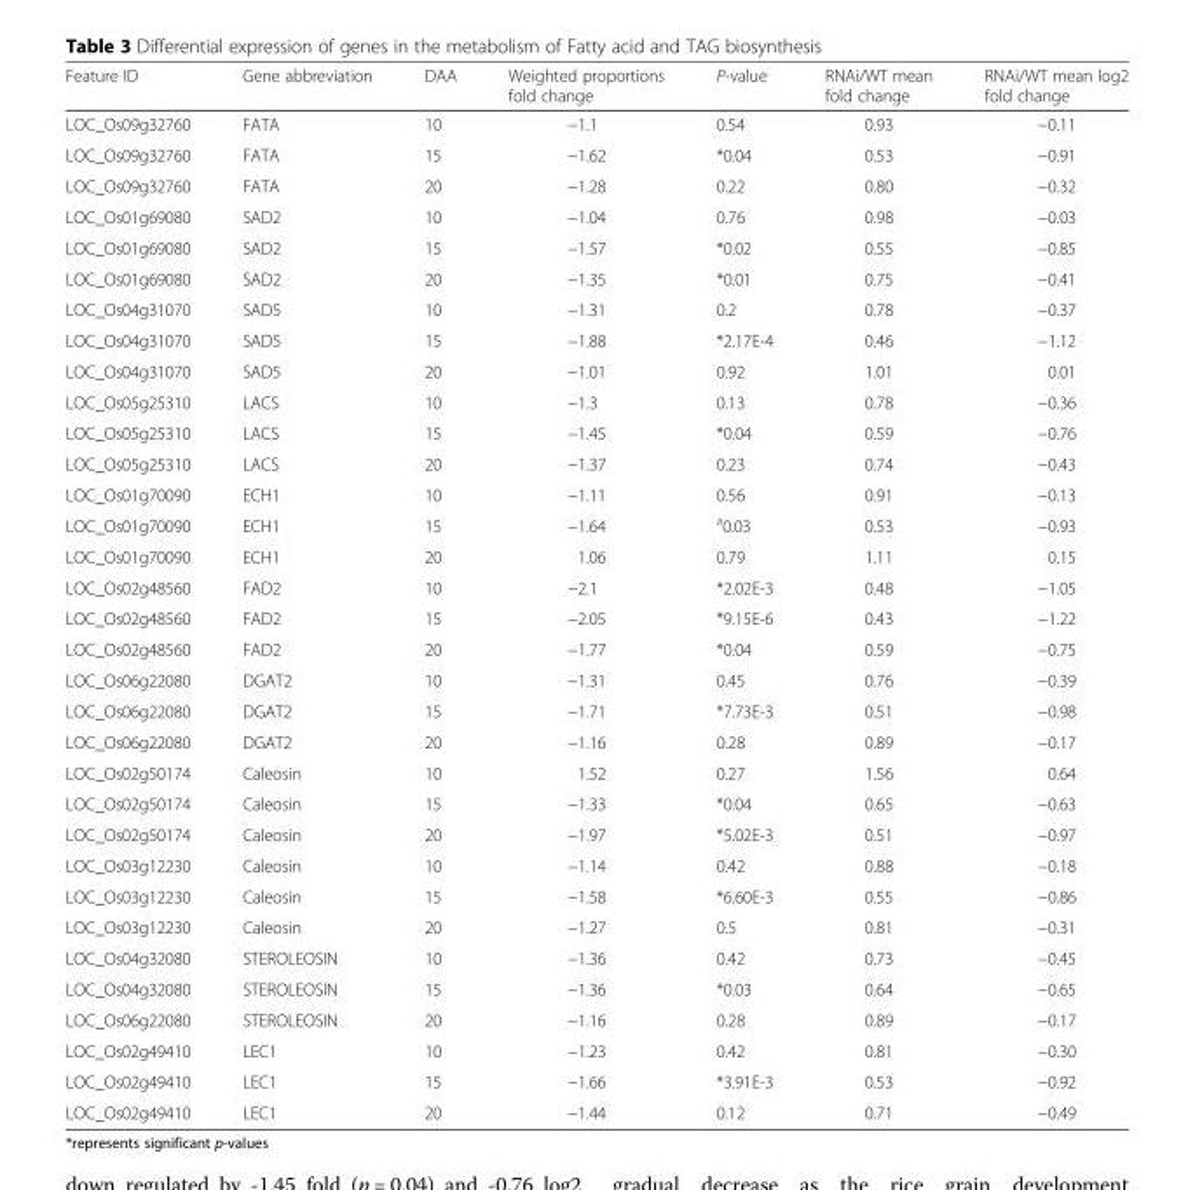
<table><thead><tr><td>Feature ID</td><td>Gene abbreviation</td><td>DAA</td><td>Weighted proportions fold change</td><td>P-value</td><td>RNAi/WT mean fold change</td><td>RNAi/WT mean log2 fold change</td></tr></thead><tbody><tr><td>LOC_Os09g32760</td><td>FATA</td><td>10</td><td>−1.1</td><td>0.54</td><td>0.93</td><td>−0.11</td></tr><tr><td>LOC_Os09g32760</td><td>FATA</td><td>15</td><td>−1.62</td><td>*0.04</td><td>0.53</td><td>−0.91</td></tr><tr><td>LOC_Os09g32760</td><td>FATA</td><td>20</td><td>−1.28</td><td>0.22</td><td>0.80</td><td>−0.32</td></tr><tr><td>LOC_Os01g69080</td><td>SAD2</td><td>10</td><td>−1.04</td><td>0.76</td><td>0.98</td><td>−0.03</td></tr><tr><td>LOC_Os01g69080</td><td>SAD2</td><td>15</td><td>−1.57</td><td>*0.02</td><td>0.55</td><td>−0.85</td></tr><tr><td>LOC_Os01g69080</td><td>SAD2</td><td>20</td><td>−1.35</td><td>*0.01</td><td>0.75</td><td>−0.41</td></tr><tr><td>LOC_Os04g31070</td><td>SAD5</td><td>10</td><td>−1.31</td><td>0.2</td><td>0.78</td><td>−0.37</td></tr><tr><td>LOC_Os04g31070</td><td>SAD5</td><td>15</td><td>−1.88</td><td>*2.17E-4</td><td>0.46</td><td>−1.12</td></tr><tr><td>LOC_Os04g31070</td><td>SAD5</td><td>20</td><td>−1.01</td><td>0.92</td><td>1.01</td><td>0.01</td></tr><tr><td>LOC_Os05g25310</td><td>LACS</td><td>10</td><td>−1.3</td><td>0.13</td><td>0.78</td><td>−0.36</td></tr><tr><td>LOC_Os05g25310</td><td>LACS</td><td>15</td><td>−1.45</td><td>*0.04</td><td>0.59</td><td>−0.76</td></tr><tr><td>LOC_Os05g25310</td><td>LACS</td><td>20</td><td>−1.37</td><td>0.23</td><td>0.74</td><td>−0.43</td></tr><tr><td>LOC_Os01g70090</td><td>ECH1</td><td>10</td><td>−1.11</td><td>0.56</td><td>0.91</td><td>−0.13</td></tr><tr><td>LOC_Os01g70090</td><td>ECH1</td><td>15</td><td>−1.64</td><td><sup>a</sup>0.03</td><td>0.53</td><td>−0.93</td></tr><tr><td>LOC_Os01g70090</td><td>ECH1</td><td>20</td><td>1.06</td><td>0.79</td><td>1.11</td><td>0.15</td></tr><tr><td>LOC_Os02g48560</td><td>FAD2</td><td>10</td><td>−2.1</td><td>*2.02E-3</td><td>0.48</td><td>−1.05</td></tr><tr><td>LOC_Os02g48560</td><td>FAD2</td><td>15</td><td>−2.05</td><td>*9.15E-6</td><td>0.43</td><td>−1.22</td></tr><tr><td>LOC_Os02g48560</td><td>FAD2</td><td>20</td><td>−1.77</td><td>*0.04</td><td>0.59</td><td>−0.75</td></tr><tr><td>LOC_Os06g22080</td><td>DGAT2</td><td>10</td><td>−1.31</td><td>0.45</td><td>0.76</td><td>−0.39</td></tr><tr><td>LOC_Os06g22080</td><td>DGAT2</td><td>15</td><td>−1.71</td><td>*7.73E-3</td><td>0.51</td><td>−0.98</td></tr><tr><td>LOC_Os06g22080</td><td>DGAT2</td><td>20</td><td>−1.16</td><td>0.28</td><td>0.89</td><td>−0.17</td></tr><tr><td>LOC_Os02g50174</td><td>Caleosin</td><td>10</td><td>1.52</td><td>0.27</td><td>1.56</td><td>0.64</td></tr><tr><td>LOC_Os02g50174</td><td>Caleosin</td><td>15</td><td>−1.33</td><td>*0.04</td><td>0.65</td><td>−0.63</td></tr><tr><td>LOC_Os02g50174</td><td>Caleosin</td><td>20</td><td>−1.97</td><td>*5.02E-3</td><td>0.51</td><td>−0.97</td></tr><tr><td>LOC_Os03g12230</td><td>Caleosin</td><td>10</td><td>−1.14</td><td>0.42</td><td>0.88</td><td>−0.18</td></tr><tr><td>LOC_Os03g12230</td><td>Caleosin</td><td>15</td><td>−1.58</td><td>*6.60E-3</td><td>0.55</td><td>−0.86</td></tr><tr><td>LOC_Os03g12230</td><td>Caleosin</td><td>20</td><td>−1.27</td><td>0.5</td><td>0.81</td><td>−0.31</td></tr><tr><td>LOC_Os04g32080</td><td>STEROLEOSIN</td><td>10</td><td>−1.36</td><td>0.42</td><td>0.73</td><td>−0.45</td></tr><tr><td>LOC_Os04g32080</td><td>STEROLEOSIN</td><td>15</td><td>−1.36</td><td>*0.03</td><td>0.64</td><td>−0.65</td></tr><tr><td>LOC_Os06g22080</td><td>STEROLEOSIN</td><td>20</td><td>−1.16</td><td>0.28</td><td>0.89</td><td>−0.17</td></tr><tr><td>LOC_Os02g49410</td><td>LEC1</td><td>10</td><td>−1.23</td><td>0.42</td><td>0.81</td><td>−0.30</td></tr><tr><td>LOC_Os02g49410</td><td>LEC1</td><td>15</td><td>−1.66</td><td>*3.91E-3</td><td>0.53</td><td>−0.92</td></tr><tr><td>LOC_Os02g49410</td><td>LEC1</td><td>20</td><td>−1.44</td><td>0.12</td><td>0.71</td><td>−0.49</td></tr></tbody></table>